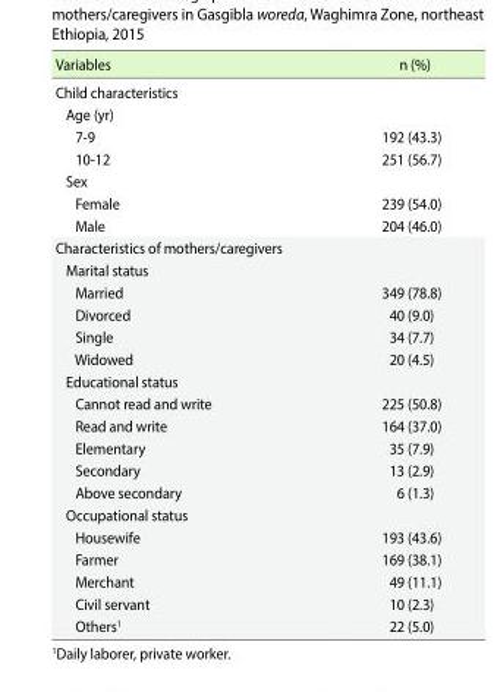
<table><thead><tr><td>Variables</td><td>n (%)</td></tr></thead><tbody><tr><td colspan="2">Child characteristics</td></tr><tr><td colspan="2">Age (yr)</td></tr><tr><td>7-9</td><td>192 (43.3)</td></tr><tr><td>10-12</td><td>251 (56.7)</td></tr><tr><td colspan="2">Sex</td></tr><tr><td>Female</td><td>239 (54.0)</td></tr><tr><td>Male</td><td>204 (46.0)</td></tr><tr><td colspan="2">Characteristics of mothers/caregivers</td></tr><tr><td colspan="2">Marital status</td></tr><tr><td>Married</td><td>349 (78.8)</td></tr><tr><td>Divorced</td><td>40 (9.0)</td></tr><tr><td>Single</td><td>34 (7.7)</td></tr><tr><td>Widowed</td><td>20 (4.5)</td></tr><tr><td colspan="2">Educational status</td></tr><tr><td>Cannot read and write</td><td>225 (50.8)</td></tr><tr><td>Read and write</td><td>164 (37.0)</td></tr><tr><td>Elementary</td><td>35 (7.9)</td></tr><tr><td>Secondary</td><td>13 (2.9)</td></tr><tr><td>Above secondary</td><td>6 (1.3)</td></tr><tr><td colspan="2">Occupational status</td></tr><tr><td>Housewife</td><td>193 (43.6)</td></tr><tr><td>Farmer</td><td>169 (38.1)</td></tr><tr><td>Merchant</td><td>49 (11.1)</td></tr><tr><td>Civil servant</td><td>10 (2.3)</td></tr><tr><td>Others<sup>1</sup></td><td>22 (5.0)</td></tr></tbody></table>